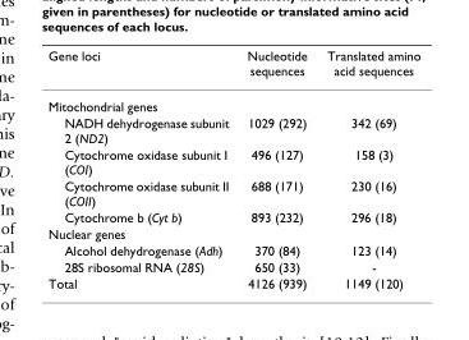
<table><thead><tr><td>Gene loci</td><td>Nucleotide sequences</td><td>Translated amino acid sequences</td></tr></thead><tbody><tr><td colspan="3">Mitochondrial genes</td></tr><tr><td>NADH dehydrogenase subunit 2 (ND2)</td><td>1029 (292)</td><td>342 (69)</td></tr><tr><td>Cytochrome oxidase subunit I (COI)</td><td>496 (127)</td><td>158 (3)</td></tr><tr><td>Cytochrome oxidase subunit II (COII)</td><td>688 (171)</td><td>230 (16)</td></tr><tr><td>Cytochrome b (Cyt b)</td><td>893 (232)</td><td>296 (18)</td></tr><tr><td colspan="3">Nuclear genes</td></tr><tr><td>Alcohol dehydrogenase (Adh)</td><td>370 (84)</td><td>123 (14)</td></tr><tr><td>28S ribosomal RNA (28S)</td><td>650 (33)</td><td>-</td></tr><tr><td>Total</td><td>4126 (939)</td><td>1149 (120)</td></tr></tbody></table>